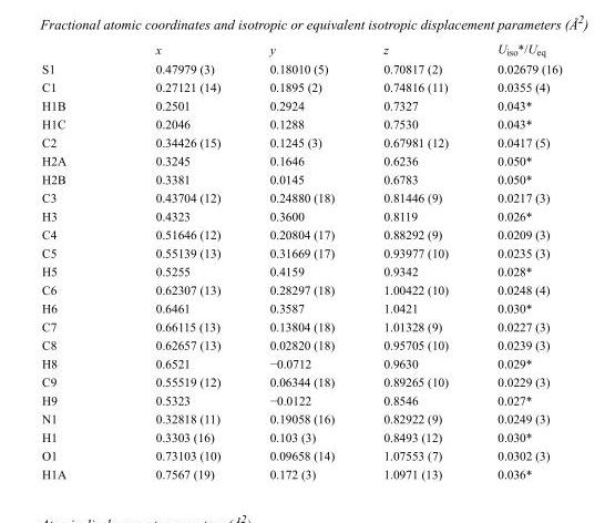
<table><thead><tr><td></td><td>x</td><td>y</td><td>z</td><td>U<sub>iso</sub>*/U<sub>eq</sub></td></tr></thead><tbody><tr><td>S1</td><td>0.47979 (3)</td><td>0.18010 (5)</td><td>0.70817 (2)</td><td>0.02679 (16)</td></tr><tr><td>C1</td><td>0.27121 (14)</td><td>0.1895 (2)</td><td>0.74816 (11)</td><td>0.0355 (4)</td></tr><tr><td>H1B</td><td>0.2501</td><td>0.2924</td><td>0.7327</td><td>0.043*</td></tr><tr><td>H1C</td><td>0.2046</td><td>0.1288</td><td>0.7530</td><td>0.043*</td></tr><tr><td>C2</td><td>0.34426 (15)</td><td>0.1245 (3)</td><td>0.67981 (12)</td><td>0.0417 (5)</td></tr><tr><td>H2A</td><td>0.3245</td><td>0.1646</td><td>0.6236</td><td>0.050*</td></tr><tr><td>H2B</td><td>0.3381</td><td>0.0145</td><td>0.6783</td><td>0.050*</td></tr><tr><td>C3</td><td>0.43704 (12)</td><td>0.24880 (18)</td><td>0.81446 (9)</td><td>0.0217 (3)</td></tr><tr><td>H3</td><td>0.4323</td><td>0.3600</td><td>0.8119</td><td>0.026*</td></tr><tr><td>C4</td><td>0.51646 (12)</td><td>0.20804 (17)</td><td>0.88292 (9)</td><td>0.0209 (3)</td></tr><tr><td>C5</td><td>0.55139 (13)</td><td>0.31669 (17)</td><td>0.93977 (10)</td><td>0.0235 (3)</td></tr><tr><td>H5</td><td>0.5255</td><td>0.4159</td><td>0.9342</td><td>0.028*</td></tr><tr><td>C6</td><td>0.62307 (13)</td><td>0.28297 (18)</td><td>1.00422 (10)</td><td>0.0248 (4)</td></tr><tr><td>H6</td><td>0.6461</td><td>0.3587</td><td>1.0421</td><td>0.030*</td></tr><tr><td>C7</td><td>0.66115 (13)</td><td>0.13804 (18)</td><td>1.01328 (9)</td><td>0.0227 (3)</td></tr><tr><td>C8</td><td>0.62657 (13)</td><td>0.02820 (18)</td><td>0.95705 (10)</td><td>0.0239 (3)</td></tr><tr><td>H8</td><td>0.6521</td><td>−0.0712</td><td>0.9630</td><td>0.029*</td></tr><tr><td>C9</td><td>0.55519 (12)</td><td>0.06344 (18)</td><td>0.89265 (10)</td><td>0.0229 (3)</td></tr><tr><td>H9</td><td>0.5323</td><td>−0.0122</td><td>0.8546</td><td>0.027*</td></tr><tr><td>N1</td><td>0.32818 (11)</td><td>0.19058 (16)</td><td>0.82922 (9)</td><td>0.0249 (3)</td></tr><tr><td>H1</td><td>0.3303 (16)</td><td>0.103 (3)</td><td>0.8493 (12)</td><td>0.030*</td></tr><tr><td>O1</td><td>0.73103 (10)</td><td>0.09658 (14)</td><td>1.07553 (7)</td><td>0.0302 (3)</td></tr><tr><td>H1A</td><td>0.7567 (19)</td><td>0.172 (3)</td><td>1.0971 (13)</td><td>0.036*</td></tr></tbody></table>